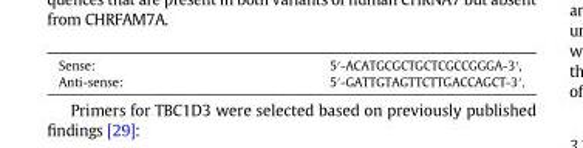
<table><tbody><tr><td>Sense:</td><td>5′-ACATGCGCTGCTCGCCGGGA-3′,</td></tr><tr><td>Anti-sense:</td><td>5′-GATTGTAGTTCTTGACCAGCT-3′.</td></tr></tbody></table>